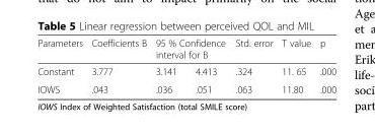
<table><thead><tr><td rowspan="2">Parameters Constant</td><td rowspan="2">Coefficients B 3.777</td><td colspan="2">95 % Confidence interval for B</td><td rowspan="2">Std. error .324</td><td rowspan="2">T value 11. 65</td><td rowspan="2">p .000</td></tr><tr><td>3.141</td><td>4.413</td></tr></thead><tbody><tr><td>IOWS</td><td>.043</td><td>.036</td><td>.051</td><td>.063</td><td>11.80</td><td>.000</td></tr></tbody></table>